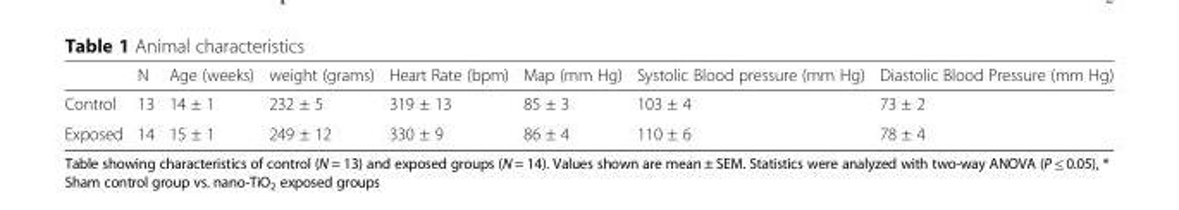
<table><thead><tr><td></td><td>N</td><td>Age (weeks)</td><td>weight (grams)</td><td>Heart Rate (bpm)</td><td>Map (mm Hg)</td><td>Systolic Blood pressure (mm Hg)</td><td>Diastolic Blood Pressure (mm Hg)</td></tr></thead><tbody><tr><td>Control</td><td>13</td><td>14 ± 1</td><td>232 ± 5</td><td>319 ± 13</td><td>85 ± 3</td><td>103 ± 4</td><td>73 ± 2</td></tr><tr><td>Exposed</td><td>14</td><td>15 ± 1</td><td>249 ± 12</td><td>330 ± 9</td><td>86 ± 4</td><td>110 ± 6</td><td>78 ± 4</td></tr></tbody></table>